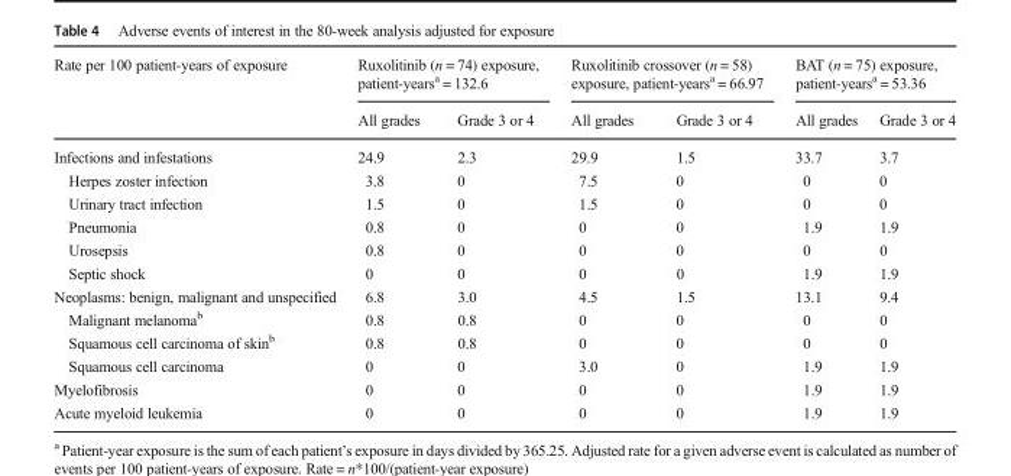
<table><thead><tr><td rowspan="2">Rate per 100 patient-years of exposure</td><td colspan="2">Ruxolitinib (n = 74) exposure, patient-years<sup>a</sup> = 132.6</td><td colspan="2">Ruxolitinib crossover (n = 58) exposure, patient-years<sup>a</sup> = 66.97</td><td colspan="2">BAT (n = 75) exposure, patient-years<sup>a</sup> = 53.36</td></tr><tr><td>All grades</td><td>Grade 3 or 4</td><td>All grades</td><td>Grade 3 or 4</td><td>All grades</td><td>Grade 3 or 4</td></tr></thead><tbody><tr><td>Infections and infestations</td><td>24.9</td><td>2.3</td><td>29.9</td><td>1.5</td><td>33.7</td><td>3.7</td></tr><tr><td>Herpes zoster infection</td><td>3.8</td><td>0</td><td>7.5</td><td>0</td><td>0</td><td>0</td></tr><tr><td>Urinary tract infection</td><td>1.5</td><td>0</td><td>1.5</td><td>0</td><td>0</td><td>0</td></tr><tr><td>Pneumonia</td><td>0.8</td><td>0</td><td>0</td><td>0</td><td>1.9</td><td>1.9</td></tr><tr><td>Urosepsis</td><td>0.8</td><td>0</td><td>0</td><td>0</td><td>0</td><td>0</td></tr><tr><td>Septic shock</td><td>0</td><td>0</td><td>0</td><td>0</td><td>1.9</td><td>1.9</td></tr><tr><td>Neoplasms: benign, malignant and unspecified</td><td>6.8</td><td>3.0</td><td>4.5</td><td>1.5</td><td>13.1</td><td>9.4</td></tr><tr><td>Malignant melanoma<sup>b</sup></td><td>0.8</td><td>0.8</td><td>0</td><td>0</td><td>0</td><td>0</td></tr><tr><td>Squamous cell carcinoma of skin<sup>b</sup></td><td>0.8</td><td>0.8</td><td>0</td><td>0</td><td>0</td><td>0</td></tr><tr><td>Squamous cell carcinoma</td><td>0</td><td>0</td><td>3.0</td><td>0</td><td>1.9</td><td>1.9</td></tr><tr><td>Myelofibrosis</td><td>0</td><td>0</td><td>0</td><td>0</td><td>1.9</td><td>1.9</td></tr><tr><td>Acute myeloid leukemia</td><td>0</td><td>0</td><td>0</td><td>0</td><td>1.9</td><td>1.9</td></tr></tbody></table>